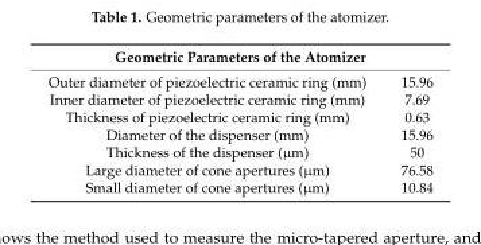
<table><thead><tr><td colspan="2">Geometric Parameters of the Atomizer</td></tr><tr><td>Outer diameter of piezoelectric ceramic ring (mm)</td><td>15.96</td></tr></thead><tbody><tr><td>Inner diameter of piezoelectric ceramic ring (mm)</td><td>7.69</td></tr><tr><td>Thickness of piezoelectric ceramic ring (mm)</td><td>0.63</td></tr><tr><td>Diameter of the dispenser (mm)</td><td>15.96</td></tr><tr><td>Thickness of the dispenser (µm)</td><td>50</td></tr><tr><td>Large diameter of cone apertures (µm)</td><td>76.58</td></tr><tr><td>Small diameter of cone apertures (µm)</td><td>10.84</td></tr></tbody></table>